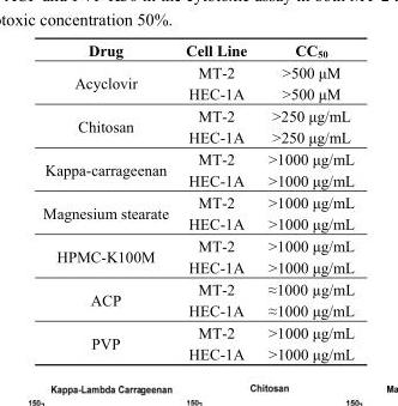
<table><thead><tr><td>Drug</td><td>Cell Line</td><td>CC<sub>50</sub></td></tr></thead><tbody><tr><td rowspan="2">Acyclovir</td><td>MT-2</td><td>&gt;500 μM</td></tr><tr><td>HEC-1A</td><td>&gt;500 μM</td></tr><tr><td rowspan="2">Chitosan</td><td>MT-2</td><td>&gt;250 μg/mL</td></tr><tr><td>HEC-1A</td><td>&gt;250 μg/mL</td></tr><tr><td rowspan="2">Kappa-carrageenan</td><td>MT-2</td><td>&gt;1000 μg/mL</td></tr><tr><td>HEC-1A</td><td>&gt;1000 μg/mL</td></tr><tr><td rowspan="2">Magnesium stearate</td><td>MT-2</td><td>&gt;1000 μg/mL</td></tr><tr><td>HEC-1A</td><td>&gt;1000 μg/mL</td></tr><tr><td rowspan="2">HPMC-K100M</td><td>MT-2</td><td>&gt;1000 μg/mL</td></tr><tr><td>HEC-1A</td><td>&gt;1000 μg/mL</td></tr><tr><td rowspan="2">ACP</td><td>MT-2</td><td>≈1000 µg/mL</td></tr><tr><td>HEC-1A</td><td>≈1000 μg/mL</td></tr><tr><td rowspan="2">PVP</td><td>MT-2</td><td>&gt;1000 μg/mL</td></tr><tr><td>HEC-1A</td><td>&gt;1000 μg/mL</td></tr></tbody></table>